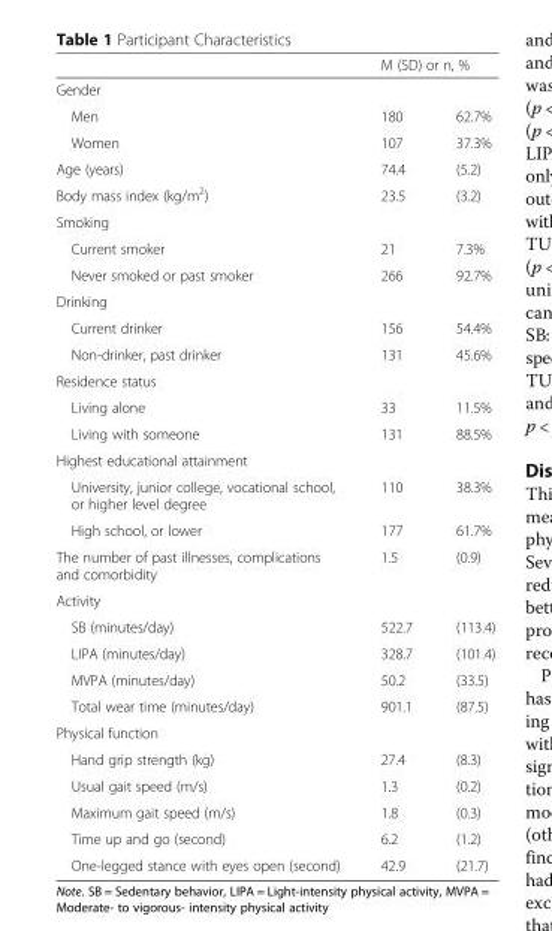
<table><thead><tr><td></td><td colspan="2">M (SD) or n, %</td></tr><tr><td colspan="3">Gender</td></tr><tr><td>Men</td><td>180</td><td>62.7%</td></tr></thead><tbody><tr><td>Women</td><td>107</td><td>37.3%</td></tr><tr><td>Age (years)</td><td>74.4</td><td>(5.2)</td></tr><tr><td>Body mass index (kg/m<sup>2</sup>)</td><td>23.5</td><td>(3.2)</td></tr><tr><td colspan="3">Smoking</td></tr><tr><td>Current smoker</td><td>21</td><td>7.3%</td></tr><tr><td>Never smoked or past smoker</td><td>266</td><td>92.7%</td></tr><tr><td colspan="3">Drinking</td></tr><tr><td>Current drinker</td><td>156</td><td>54.4%</td></tr><tr><td>Non-drinker, past drinker</td><td>131</td><td>45.6%</td></tr><tr><td colspan="3">Residence status</td></tr><tr><td>Living alone</td><td>33</td><td>11.5%</td></tr><tr><td>Living with someone</td><td>131</td><td>88.5%</td></tr><tr><td colspan="3">Highest educational attainment</td></tr><tr><td>University, junior college, vocational school, or higher level degree</td><td>110</td><td>38.3%</td></tr><tr><td>High school, or lower</td><td>177</td><td>61.7%</td></tr><tr><td>The number of past illnesses, complications and comorbidity</td><td>1.5</td><td>(0.9)</td></tr><tr><td colspan="3">Activity</td></tr><tr><td>SB (minutes/day)</td><td>522.7</td><td>(113.4)</td></tr><tr><td>LIPA (minutes/day)</td><td>328.7</td><td>(101.4)</td></tr><tr><td>MVPA (minutes/day)</td><td>50.2</td><td>(33.5)</td></tr><tr><td>Total wear time (minutes/day)</td><td>901.1</td><td>(87.5)</td></tr><tr><td colspan="3">Physical function</td></tr><tr><td>Hand grip strength (kg)</td><td>27.4</td><td>(8.3)</td></tr><tr><td>Usual gait speed (m/s)</td><td>1.3</td><td>(0.2)</td></tr><tr><td>Maximum gait speed (m/s)</td><td>1.8</td><td>(0.3)</td></tr><tr><td>Time up and go (second)</td><td>6.2</td><td>(1.2)</td></tr><tr><td>One-legged stance with eyes open (second)</td><td>42.9</td><td>(21.7)</td></tr></tbody></table>